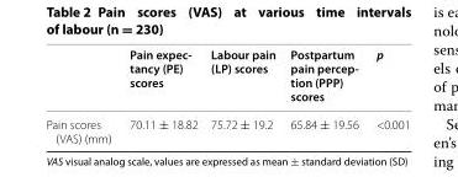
<table><thead><tr><td></td><td>Pain expec- tancy (PE) scores</td><td>Labour pain (LP) scores</td><td>Postpartum pain percep- tion (PPP) scores</td><td>p</td></tr></thead><tbody><tr><td>Pain scores (VAS) (mm)</td><td>70.11 ± 18.82</td><td>75.72 ± 19.2</td><td>65.84 ± 19.56</td><td>&lt;0.001</td></tr></tbody></table>